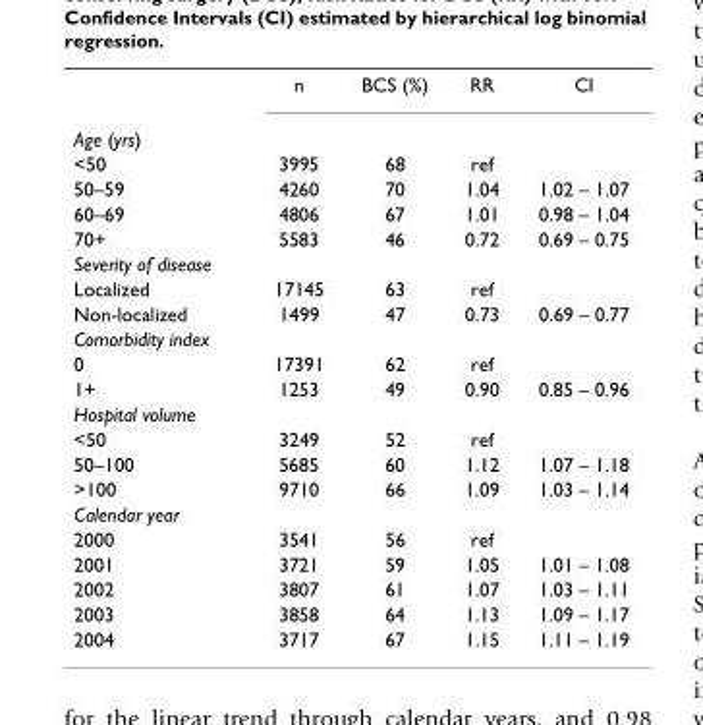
<table><thead><tr><td></td><td>n</td><td>BCS (%)</td><td>RR</td><td>CI</td></tr></thead><tbody><tr><td colspan="5">Age (yrs)</td></tr><tr><td>&lt;50</td><td>3995</td><td>68</td><td>ref</td><td></td></tr><tr><td>50–59</td><td>4260</td><td>70</td><td>1.04</td><td>1.02 – 1.07</td></tr><tr><td>60–69</td><td>4806</td><td>67</td><td>1.01</td><td>0.98 – 1.04</td></tr><tr><td>70+</td><td>5583</td><td>46</td><td>0.72</td><td>0.69 – 0.75</td></tr><tr><td colspan="5">Severity of disease</td></tr><tr><td>Localized</td><td>17145</td><td>63</td><td>ref</td><td></td></tr><tr><td>Non-localized</td><td>1499</td><td>47</td><td>0.73</td><td>0.69 – 0.77</td></tr><tr><td colspan="5">Comorbidity index</td></tr><tr><td>0</td><td>17391</td><td>62</td><td>ref</td><td></td></tr><tr><td>1+</td><td>1253</td><td>49</td><td>0.90</td><td>0.85 – 0.96</td></tr><tr><td colspan="5">Hospital volume</td></tr><tr><td>&lt;50</td><td>3249</td><td>52</td><td>ref</td><td></td></tr><tr><td>50–100</td><td>5685</td><td>60</td><td>1.12</td><td>1.07 – 1.18</td></tr><tr><td>&gt;100</td><td>9710</td><td>66</td><td>1.09</td><td>1.03 – 1.14</td></tr><tr><td colspan="5">Calendar year</td></tr><tr><td>2000</td><td>3541</td><td>56</td><td>ref</td><td></td></tr><tr><td>2001</td><td>3721</td><td>59</td><td>1.05</td><td>1.01 – 1.08</td></tr><tr><td>2002</td><td>3807</td><td>61</td><td>1.07</td><td>1.03 – 1.11</td></tr><tr><td>2003</td><td>3858</td><td>64</td><td>1.13</td><td>1.09 – 1.17</td></tr><tr><td>2004</td><td>3717</td><td>67</td><td>1.15</td><td>1.11 – 1.19</td></tr></tbody></table>